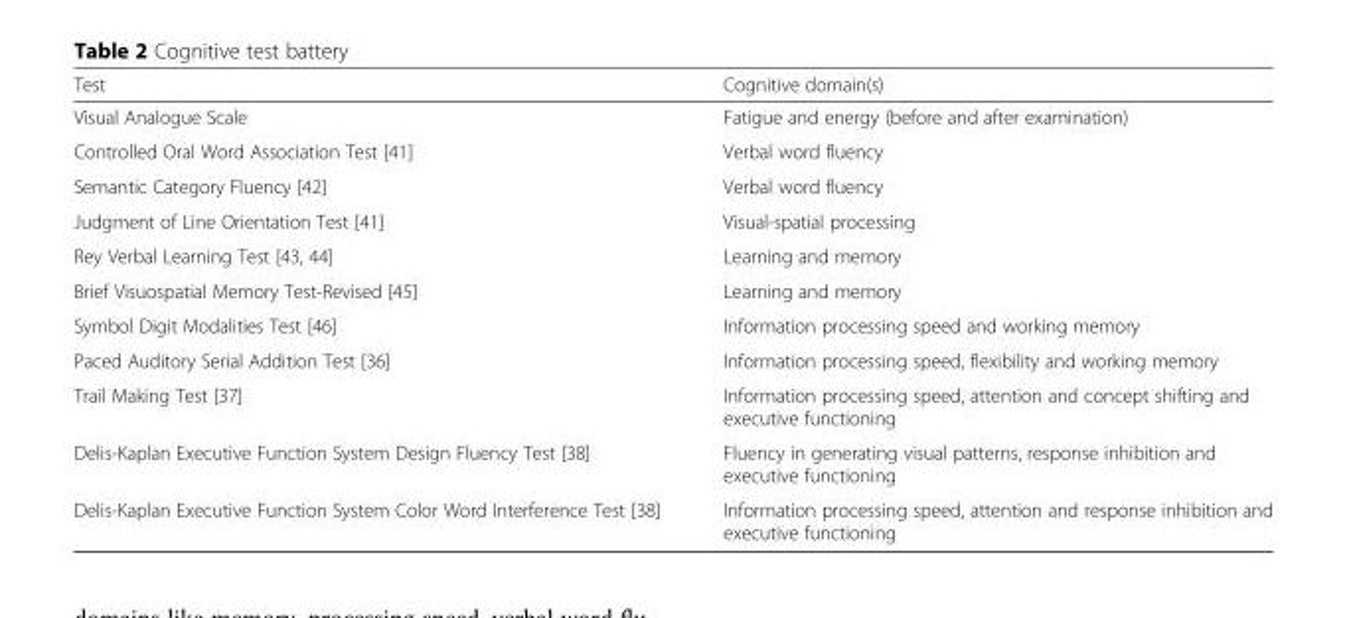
<table><thead><tr><td>Test</td><td>Cognitive domain(s)</td></tr></thead><tbody><tr><td>Visual Analogue Scale</td><td>Fatigue and energy (before and after examination)</td></tr><tr><td>Controlled Oral Word Association Test [41]</td><td>Verbal word fluency</td></tr><tr><td>Semantic Category Fluency [42]</td><td>Verbal word fluency</td></tr><tr><td>Judgment of Line Orientation Test [41]</td><td>Visual-spatial processing</td></tr><tr><td>Rey Verbal Learning Test [43, 44]</td><td>Learning and memory</td></tr><tr><td>Brief Visuospatial Memory Test-Revised [45]</td><td>Learning and memory</td></tr><tr><td>Symbol Digit Modalities Test [46]</td><td>Information processing speed and working memory</td></tr><tr><td>Paced Auditory Serial Addition Test [36]</td><td>Information processing speed, flexibility and working memory</td></tr><tr><td>Trail Making Test [37]</td><td>Information processing speed, attention and concept shifting and executive functioning</td></tr><tr><td>Delis-Kaplan Executive Function System Design Fluency Test [38]</td><td>Fluency in generating visual patterns, response inhibition and executive functioning</td></tr><tr><td>Delis-Kaplan Executive Function System Color Word Interference Test [38]</td><td>Information processing speed, attention and response inhibition and executive functioning</td></tr></tbody></table>